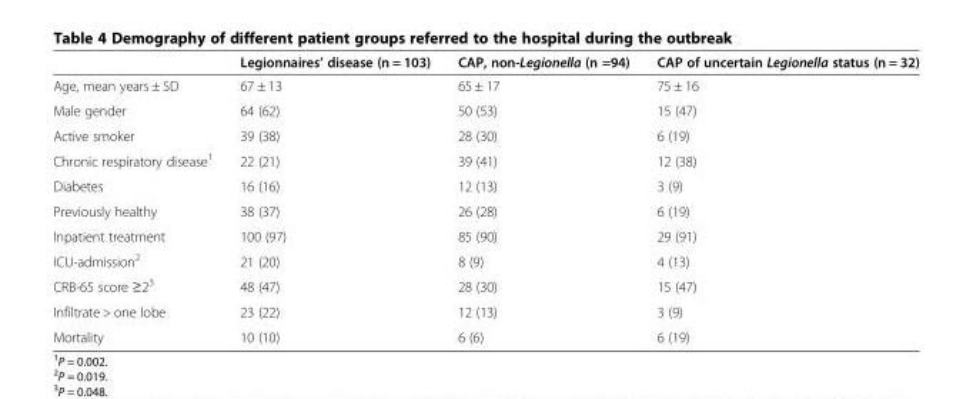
<table><thead><tr><td></td><td>Legionnaires’ disease (n = 103)</td><td>CAP, non-Legionella (n =94)</td><td>CAP of uncertain Legionella status (n = 32)</td></tr></thead><tbody><tr><td>Age, mean years ± SD</td><td>67 ± 13</td><td>65 ± 17</td><td>75 ± 16</td></tr><tr><td>Male gender</td><td>64 (62)</td><td>50 (53)</td><td>15 (47)</td></tr><tr><td>Active smoker</td><td>39 (38)</td><td>28 (30)</td><td>6 (19)</td></tr><tr><td>Chronic respiratory disease<sup>1</sup></td><td>22 (21)</td><td>39 (41)</td><td>12 (38)</td></tr><tr><td>Diabetes</td><td>16 (16)</td><td>12 (13)</td><td>3 (9)</td></tr><tr><td>Previously healthy</td><td>38 (37)</td><td>26 (28)</td><td>6 (19)</td></tr><tr><td>Inpatient treatment</td><td>100 (97)</td><td>85 (90)</td><td>29 (91)</td></tr><tr><td>ICU-admission<sup>2</sup></td><td>21 (20)</td><td>8 (9)</td><td>4 (13)</td></tr><tr><td>CRB-65 score ≥2<sup>3</sup></td><td>48 (47)</td><td>28 (30)</td><td>15 (47)</td></tr><tr><td>Infiltrate &gt; one lobe</td><td>23 (22)</td><td>12 (13)</td><td>3 (9)</td></tr><tr><td>Mortality</td><td>10 (10)</td><td>6 (6)</td><td>6 (19)</td></tr></tbody></table>